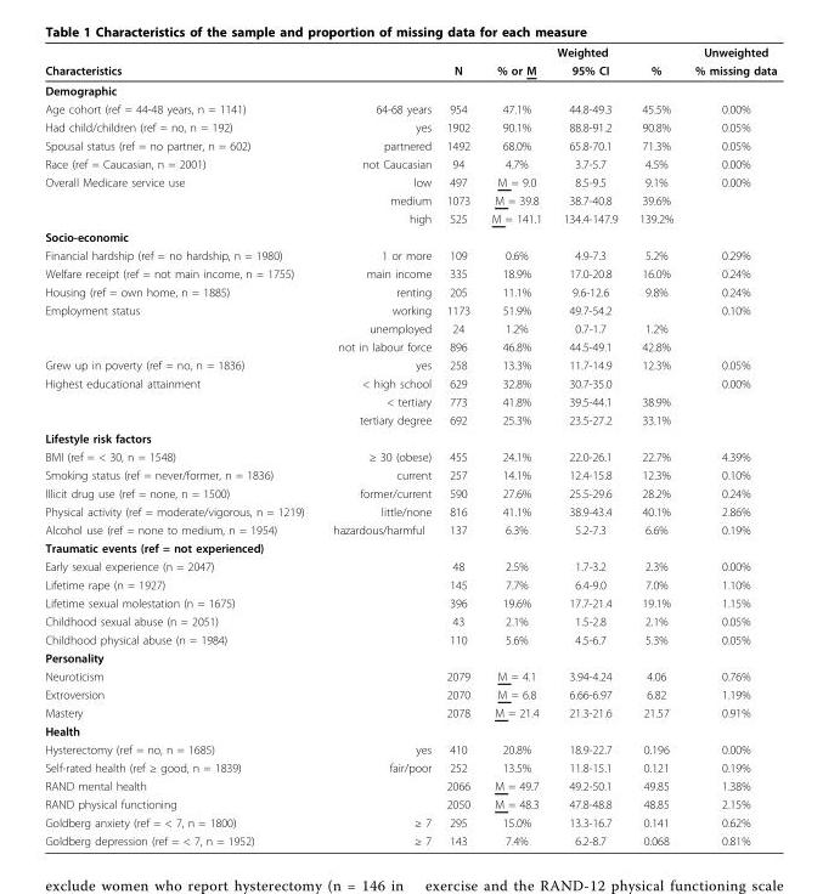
<table><thead><tr><td rowspan="2">Characteristics</td><td rowspan="2"></td><td rowspan="2">N</td><td colspan="3">Weighted</td><td rowspan="2">Unweighted % missing data</td></tr><tr><td>% or M</td><td>95% CI</td><td>%</td></tr></thead><tbody><tr><td colspan="7">Demographic</td></tr><tr><td>Age cohort (ref = 44-48 years, n = 1141)</td><td>64-68 years</td><td>954</td><td>47.1%</td><td>44.8-49.3</td><td>45.5%</td><td>0.00%</td></tr><tr><td>Had child/children (ref = no, n = 192)</td><td>yes</td><td>1902</td><td>90.1%</td><td>88.8-91.2</td><td>90.8%</td><td>0.05%</td></tr><tr><td>Spousal status (ref = no partner, n = 602)</td><td>partnered</td><td>1492</td><td>68.0%</td><td>65.8-70.1</td><td>71.3%</td><td>0.05%</td></tr><tr><td>Race (ref = Caucasian, n = 2001)</td><td>not Caucasian</td><td>94</td><td>4.7%</td><td>3.7-5.7</td><td>4.5%</td><td>0.00%</td></tr><tr><td rowspan="3">Overall Medicare service use</td><td>low</td><td>497</td><td>M = 9.0</td><td>8.5-9.5</td><td>9.1%</td><td>0.00%</td></tr><tr><td>medium</td><td>1073</td><td>M = 39.8</td><td>38.7-40.8</td><td>39.6%</td><td></td></tr><tr><td>high</td><td>525</td><td>M = 141.1</td><td>134.4-147.9</td><td>139.2%</td><td></td></tr><tr><td colspan="7">Socio-economic</td></tr><tr><td>Financial hardship (ref = no hardship, n = 1980)</td><td>1 or more</td><td>109</td><td>0.6%</td><td>4.9-7.3</td><td>5.2%</td><td>0.29%</td></tr><tr><td>Welfare receipt (ref = not main income, n = 1755)</td><td>main income</td><td>335</td><td>18.9%</td><td>17.0-20.8</td><td>16.0%</td><td>0.24%</td></tr><tr><td>Housing (ref = own home, n = 1885)</td><td>renting</td><td>205</td><td>11.1%</td><td>9.6-12.6</td><td>9.8%</td><td>0.24%</td></tr><tr><td rowspan="3">Employment status</td><td>working</td><td>1173</td><td>51.9%</td><td>49.7-54.2</td><td></td><td>0.10%</td></tr><tr><td>unemployed</td><td>24</td><td>1.2%</td><td>0.7-1.7</td><td>1.2%</td><td></td></tr><tr><td>not in labour force</td><td>896</td><td>46.8%</td><td>44.5-49.1</td><td>42.8%</td><td></td></tr><tr><td>Grew up in poverty (ref = no, n = 1836)</td><td>yes</td><td>258</td><td>13.3%</td><td>11.7-14.9</td><td>12.3%</td><td>0.05%</td></tr><tr><td rowspan="3">Highest educational attainment</td><td>&lt; high school</td><td>629</td><td>32.8%</td><td>30.7-35.0</td><td></td><td>0.00%</td></tr><tr><td>&lt; tertiary</td><td>773</td><td>41.8%</td><td>39.5-44.1</td><td>38.9%</td><td></td></tr><tr><td>tertiary degree</td><td>692</td><td>25.3%</td><td>23.5-27.2</td><td>33.1%</td><td></td></tr><tr><td colspan="7">Lifestyle risk factors</td></tr><tr><td>BMI (ref = &lt; 30, n = 1548)</td><td>≥ 30 (obese)</td><td>455</td><td>24.1%</td><td>22.0-26.1</td><td>22.7%</td><td>4.39%</td></tr><tr><td>Smoking status (ref = never/former, n = 1836)</td><td>current</td><td>257</td><td>14.1%</td><td>12.4-15.8</td><td>12.3%</td><td>0.10%</td></tr><tr><td>Illicit drug use (ref = none, n = 1500)</td><td>former/current</td><td>590</td><td>27.6%</td><td>25.5-29.6</td><td>28.2%</td><td>0.24%</td></tr><tr><td>Physical activity (ref = moderate/vigorous, n = 1219)</td><td>little/none</td><td>816</td><td>41.1%</td><td>38.9-43.4</td><td>40.1%</td><td>2.86%</td></tr><tr><td>Alcohol use (ref = none to medium, n = 1954)</td><td>hazardous/harmful</td><td>137</td><td>6.3%</td><td>5.2-7.3</td><td>6.6%</td><td>0.19%</td></tr><tr><td colspan="7">Traumatic events (ref = not experienced)</td></tr><tr><td>Early sexual experience (n = 2047)</td><td></td><td>48</td><td>2.5%</td><td>1.7-3.2</td><td>2.3%</td><td>0.00%</td></tr><tr><td>Lifetime rape (n = 1927)</td><td></td><td>145</td><td>7.7%</td><td>6.4-9.0</td><td>7.0%</td><td>1.10%</td></tr><tr><td>Lifetime sexual molestation (n = 1675)</td><td></td><td>396</td><td>19.6%</td><td>17.7-21.4</td><td>19.1%</td><td>1.15%</td></tr><tr><td>Childhood sexual abuse (n = 2051)</td><td></td><td>43</td><td>2.1%</td><td>1.5-2.8</td><td>2.1%</td><td>0.05%</td></tr><tr><td>Childhood physical abuse (n = 1984)</td><td></td><td>110</td><td>5.6%</td><td>4.5-6.7</td><td>5.3%</td><td>0.05%</td></tr><tr><td colspan="7">Personality</td></tr><tr><td>Neuroticism</td><td></td><td>2079</td><td>M = 4.1</td><td>3.94-4.24</td><td>4.06</td><td>0.76%</td></tr><tr><td>Extroversion</td><td></td><td>2070</td><td>M = 6.8</td><td>6.66-6.97</td><td>6.82</td><td>1.19%</td></tr><tr><td>Mastery</td><td></td><td>2078</td><td>M = 21.4</td><td>21.3-21.6</td><td>21.57</td><td>0.91%</td></tr><tr><td colspan="7">Health</td></tr><tr><td>Hysterectomy (ref = no, n = 1685)</td><td>yes</td><td>410</td><td>20.8%</td><td>18.9-22.7</td><td>0.196</td><td>0.00%</td></tr><tr><td>Self-rated health (ref ≥ good, n = 1839)</td><td>fair/poor</td><td>252</td><td>13.5%</td><td>11.8-15.1</td><td>0.121</td><td>0.19%</td></tr><tr><td>RAND mental health</td><td></td><td>2066</td><td>M = 49.7</td><td>49.2-50.1</td><td>49.85</td><td>1.38%</td></tr><tr><td>RAND physical functioning</td><td></td><td>2050</td><td>M = 48.3</td><td>47.8-48.8</td><td>48.85</td><td>2.15%</td></tr><tr><td>Goldberg anxiety (ref = &lt; 7, n = 1800)</td><td>≥ 7</td><td>295</td><td>15.0%</td><td>13.3-16.7</td><td>0.141</td><td>0.62%</td></tr><tr><td>Goldberg depression (ref = &lt; 7, n = 1952)</td><td>≥ 7</td><td>143</td><td>7.4%</td><td>6.2-8.7</td><td>0.068</td><td>0.81%</td></tr></tbody></table>